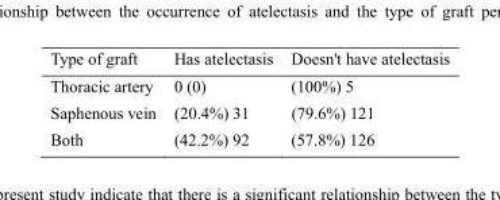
<table><thead><tr><td>Type of graft</td><td>Has atelectasis</td><td>Doesn&#x27;t have atelectasis</td></tr></thead><tbody><tr><td>Thoracic artery</td><td>0 (0)</td><td>(100%) 5</td></tr><tr><td>Saphenous vein</td><td>(20.4%) 31</td><td>(79.6%) 121</td></tr><tr><td>Both</td><td>(42.2%) 92</td><td>(57.8%) 126</td></tr></tbody></table>